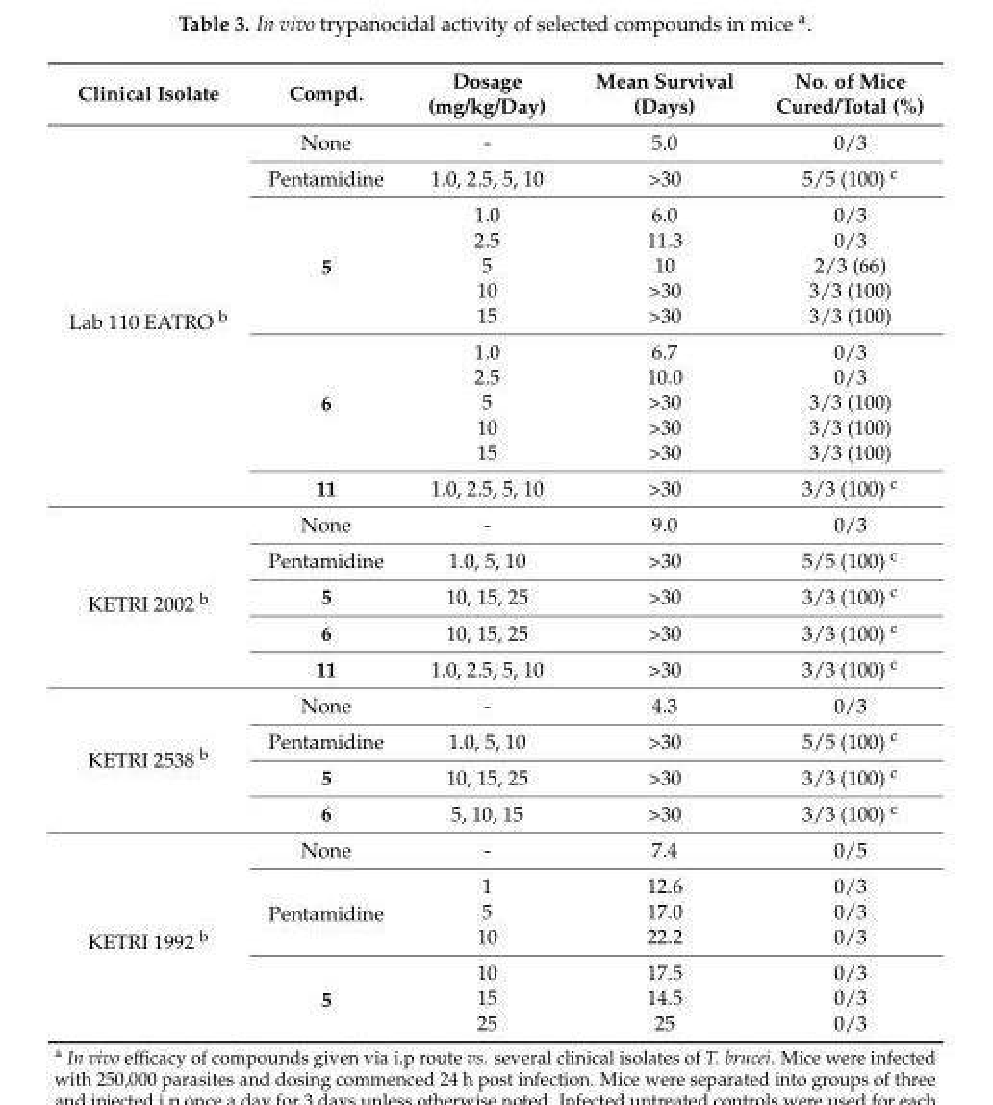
<table><thead><tr><td>Clinical Isolate</td><td>Compd.</td><td>Dosage (mg/kg/Day)</td><td>Mean Survival (Days)</td><td>No. of Mice Cured/Total (%)</td></tr></thead><tbody><tr><td rowspan="13">Lab 110 EATRO b</td><td>None</td><td>-</td><td>5.0</td><td>0/3</td></tr><tr><td>Pentamidine</td><td>1.0, 2.5, 5, 10</td><td>&gt;30</td><td>5/5 (100) c</td></tr><tr><td rowspan="5">5</td><td>1.0</td><td>6.0</td><td>0/3</td></tr><tr><td>2.5</td><td>11.3</td><td>0/3</td></tr><tr><td>5</td><td>10</td><td>2/3 (66)</td></tr><tr><td>10</td><td>&gt;30</td><td>3/3 (100)</td></tr><tr><td>15</td><td>&gt;30</td><td>3/3 (100)</td></tr><tr><td rowspan="5">6</td><td>1.0</td><td>6.7</td><td>0/3</td></tr><tr><td>2.5</td><td>10.0</td><td>0/3</td></tr><tr><td>5</td><td>&gt;30</td><td>3/3 (100)</td></tr><tr><td>10</td><td>&gt;30</td><td>3/3 (100)</td></tr><tr><td>15</td><td>&gt;30</td><td>3/3 (100)</td></tr><tr><td>11</td><td>1.0, 2.5, 5, 10</td><td>&gt;30</td><td>3/3 (100) c</td></tr><tr><td rowspan="5">KETRI 2002 b</td><td>None</td><td>-</td><td>9.0</td><td>0/3</td></tr><tr><td>Pentamidine</td><td>1.0, 5, 10</td><td>&gt;30</td><td>5/5 (100) c</td></tr><tr><td>5</td><td>10, 15, 25</td><td>&gt;30</td><td>3/3 (100) c</td></tr><tr><td>6</td><td>10, 15, 25</td><td>&gt;30</td><td>3/3 (100) c</td></tr><tr><td>11</td><td>1.0, 2.5, 5, 10</td><td>&gt;30</td><td>3/3 (100) c</td></tr><tr><td rowspan="4">KETRI 2538 b</td><td>None</td><td>-</td><td>4.3</td><td>0/3</td></tr><tr><td>Pentamidine</td><td>1.0, 5, 10</td><td>&gt;30</td><td>5/5 (100) c</td></tr><tr><td>5</td><td>10, 15, 25</td><td>&gt;30</td><td>3/3 (100) c</td></tr><tr><td>6</td><td>5, 10, 15</td><td>&gt;30</td><td>3/3 (100) c</td></tr><tr><td rowspan="7">KETRI 1992 b</td><td>None</td><td>-</td><td>7.4</td><td>0/5</td></tr><tr><td rowspan="3">Pentamidine</td><td>1</td><td>12.6</td><td>0/3</td></tr><tr><td>5</td><td>17.0</td><td>0/3</td></tr><tr><td>10</td><td>22.2</td><td>0/3</td></tr><tr><td rowspan="3">5</td><td>10</td><td>17.5</td><td>0/3</td></tr><tr><td>15</td><td>14.5</td><td>0/3</td></tr><tr><td>25</td><td>25</td><td>0/3</td></tr></tbody></table>